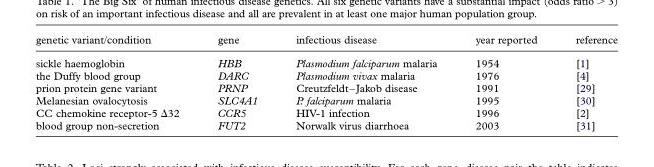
<table><thead><tr><td>genetic variant/condition</td><td>gene</td><td>infectious disease</td><td>year reported</td><td>reference</td></tr></thead><tbody><tr><td>sickle haemoglobin</td><td>HBB</td><td>Plasmodium falciparum malaria</td><td>1954</td><td>[1]</td></tr><tr><td>the Duffy blood group</td><td>DARC</td><td>Plasmodium vivax malaria</td><td>1976</td><td>[4]</td></tr><tr><td>prion protein gene variant</td><td>PRNP</td><td>Creutzfeldt–Jakob disease</td><td>1991</td><td>[29]</td></tr><tr><td>Melanesian ovalocytosis</td><td>SLC4A1</td><td>P. falciparum malaria</td><td>1995</td><td>[30]</td></tr><tr><td>CC chemokine receptor-5 Δ32</td><td>CCR5</td><td>HIV-1 infection</td><td>1996</td><td>[2]</td></tr><tr><td>blood group non-secretion</td><td>FUT2</td><td>Norwalk virus diarrhoea</td><td>2003</td><td>[31]</td></tr></tbody></table>